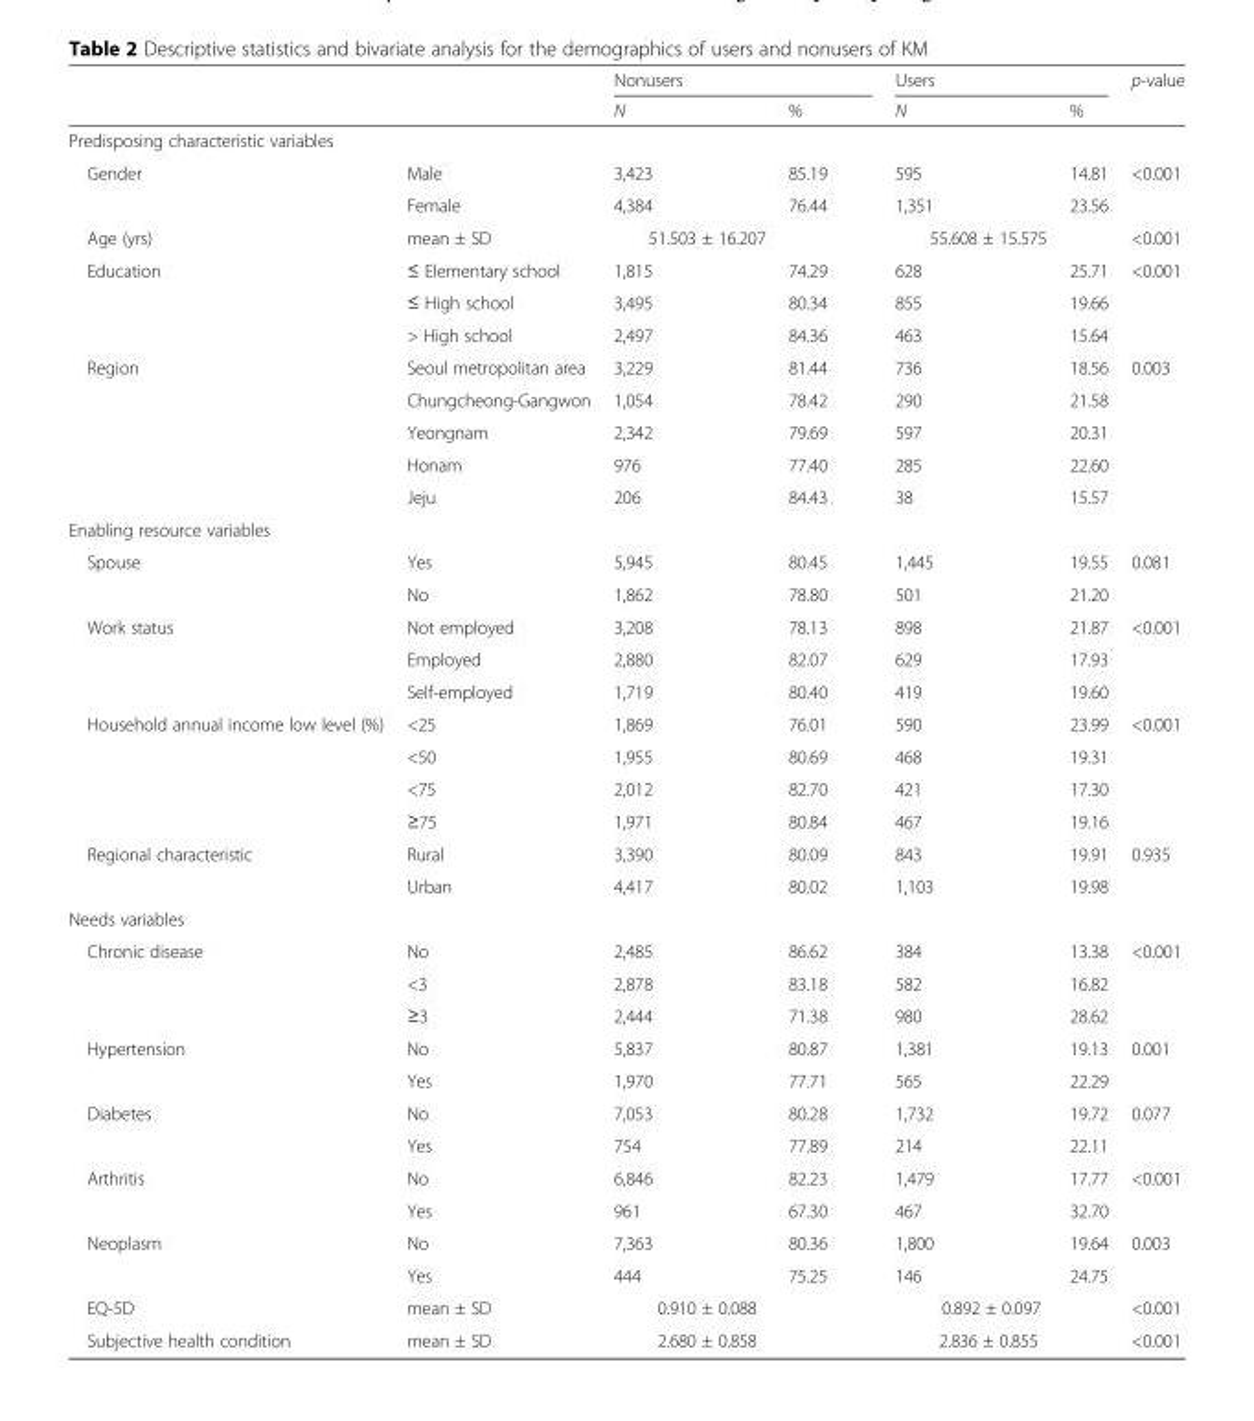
<table><thead><tr><td rowspan="2"></td><td rowspan="2"></td><td colspan="2">Nonusers</td><td colspan="2">Users</td><td rowspan="2">p-value</td></tr><tr><td>N</td><td>%</td><td>N</td><td>%</td></tr></thead><tbody><tr><td colspan="7">Predisposing characteristic variables</td></tr><tr><td rowspan="2">Gender</td><td>Male</td><td>3,423</td><td>85.19</td><td>595</td><td>14.81</td><td>&lt;0.001</td></tr><tr><td>Female</td><td>4,384</td><td>76.44</td><td>1,351</td><td>23.56</td><td></td></tr><tr><td>Age (yrs)</td><td>mean ± SD</td><td>51.503 ± 16.207</td><td></td><td>55.608 ± 15.575</td><td></td><td>&lt;0.001</td></tr><tr><td rowspan="3">Education</td><td>≤ Elementary school</td><td>1,815</td><td>74.29</td><td>628</td><td>25.71</td><td>&lt;0.001</td></tr><tr><td>≤ High school</td><td>3,495</td><td>80.34</td><td>855</td><td>19.66</td><td></td></tr><tr><td>&gt; High school</td><td>2,497</td><td>84.36</td><td>463</td><td>15.64</td><td></td></tr><tr><td rowspan="5">Region</td><td>Seoul metropolitan area</td><td>3,229</td><td>81.44</td><td>736</td><td>18.56</td><td>0.003</td></tr><tr><td>Chungcheong-Gangwon</td><td>1,054</td><td>78.42</td><td>290</td><td>21.58</td><td></td></tr><tr><td>Yeongnam</td><td>2,342</td><td>79.69</td><td>597</td><td>20.31</td><td></td></tr><tr><td>Honam</td><td>976</td><td>77.40</td><td>285</td><td>22.60</td><td></td></tr><tr><td>Jeju</td><td>206</td><td>84.43</td><td>38</td><td>15.57</td><td></td></tr><tr><td colspan="7">Enabling resource variables</td></tr><tr><td rowspan="2">Spouse</td><td>Yes</td><td>5,945</td><td>80.45</td><td>1,445</td><td>19.55</td><td>0.081</td></tr><tr><td>No</td><td>1,862</td><td>78.80</td><td>501</td><td>21.20</td><td></td></tr><tr><td rowspan="3">Work status</td><td>Not employed</td><td>3,208</td><td>78.13</td><td>898</td><td>21.87</td><td>&lt;0.001</td></tr><tr><td>Employed</td><td>2,880</td><td>82.07</td><td>629</td><td>17.93</td><td></td></tr><tr><td>Self-employed</td><td>1,719</td><td>80.40</td><td>419</td><td>19.60</td><td></td></tr><tr><td rowspan="4">Household annual income low level (%)</td><td>&lt;25</td><td>1,869</td><td>76.01</td><td>590</td><td>23.99</td><td>&lt;0.001</td></tr><tr><td>&lt;50</td><td>1,955</td><td>80.69</td><td>468</td><td>19.31</td><td></td></tr><tr><td>&lt;75</td><td>2,012</td><td>82.70</td><td>421</td><td>17.30</td><td></td></tr><tr><td>≥75</td><td>1,971</td><td>80.84</td><td>467</td><td>19.16</td><td></td></tr><tr><td rowspan="2">Regional characteristic</td><td>Rural</td><td>3,390</td><td>80.09</td><td>843</td><td>19.91</td><td>0.935</td></tr><tr><td>Urban</td><td>4,417</td><td>80.02</td><td>1,103</td><td>19.98</td><td></td></tr><tr><td colspan="7">Needs variables</td></tr><tr><td rowspan="3">Chronic disease</td><td>No</td><td>2,485</td><td>86.62</td><td>384</td><td>13.38</td><td>&lt;0.001</td></tr><tr><td>&lt;3</td><td>2,878</td><td>83.18</td><td>582</td><td>16.82</td><td></td></tr><tr><td>≥3</td><td>2,444</td><td>71.38</td><td>980</td><td>28.62</td><td></td></tr><tr><td rowspan="2">Hypertension</td><td>No</td><td>5,837</td><td>80.87</td><td>1,381</td><td>19.13</td><td>0.001</td></tr><tr><td>Yes</td><td>1,970</td><td>77.71</td><td>565</td><td>22.29</td><td></td></tr><tr><td rowspan="2">Diabetes</td><td>No</td><td>7,053</td><td>80.28</td><td>1,732</td><td>19.72</td><td>0.077</td></tr><tr><td>Yes</td><td>754</td><td>77.89</td><td>214</td><td>22.11</td><td></td></tr><tr><td rowspan="2">Arthritis</td><td>No</td><td>6,846</td><td>82.23</td><td>1,479</td><td>17.77</td><td>&lt;0.001</td></tr><tr><td>Yes</td><td>961</td><td>67.30</td><td>467</td><td>32.70</td><td></td></tr><tr><td rowspan="2">Neoplasm</td><td>No</td><td>7,363</td><td>80.36</td><td>1,800</td><td>19.64</td><td>0.003</td></tr><tr><td>Yes</td><td>444</td><td>75.25</td><td>146</td><td>24.75</td><td></td></tr><tr><td>EQ-5D</td><td>mean ± SD</td><td>0.910 ± 0.088</td><td></td><td>0.892 ± 0.097</td><td></td><td>&lt;0.001</td></tr><tr><td>Subjective health condition</td><td>mean ± SD</td><td>2.680 ± 0.858</td><td></td><td>2.836 ± 0.855</td><td></td><td>&lt;0.001</td></tr></tbody></table>